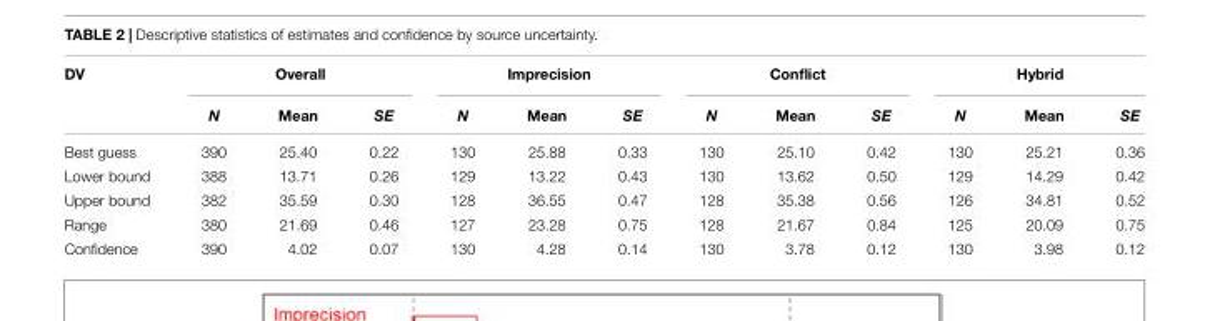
<table><thead><tr><td rowspan="2">DV</td><td colspan="3">Overall</td><td colspan="3">Imprecision</td><td colspan="3">Conflict</td><td colspan="3">Hybrid</td></tr><tr><td>N</td><td>Mean</td><td>SE</td><td>N</td><td>Mean</td><td>SE</td><td>N</td><td>Mean</td><td>SE</td><td>N</td><td>Mean</td><td>SE</td></tr></thead><tbody><tr><td>Best guess</td><td>390</td><td>25.40</td><td>0.22</td><td>130</td><td>25.88</td><td>0.33</td><td>130</td><td>25.10</td><td>0.42</td><td>130</td><td>25.21</td><td>0.36</td></tr><tr><td>Lower bound</td><td>388</td><td>13.71</td><td>0.26</td><td>129</td><td>13.22</td><td>0.43</td><td>130</td><td>13.62</td><td>0.50</td><td>129</td><td>14.29</td><td>0.42</td></tr><tr><td>Upper bound</td><td>382</td><td>35.59</td><td>0.30</td><td>128</td><td>36.55</td><td>0.47</td><td>128</td><td>35.38</td><td>0.56</td><td>126</td><td>34.81</td><td>0.52</td></tr><tr><td>Range</td><td>380</td><td>21.69</td><td>0.46</td><td>127</td><td>23.28</td><td>0.75</td><td>128</td><td>21.67</td><td>0.84</td><td>125</td><td>20.09</td><td>0.75</td></tr><tr><td>Confidence</td><td>390</td><td>4.02</td><td>0.07</td><td>130</td><td>4.28</td><td>0.14</td><td>130</td><td>3.78</td><td>0.12</td><td>130</td><td>3.98</td><td>0.12</td></tr></tbody></table>